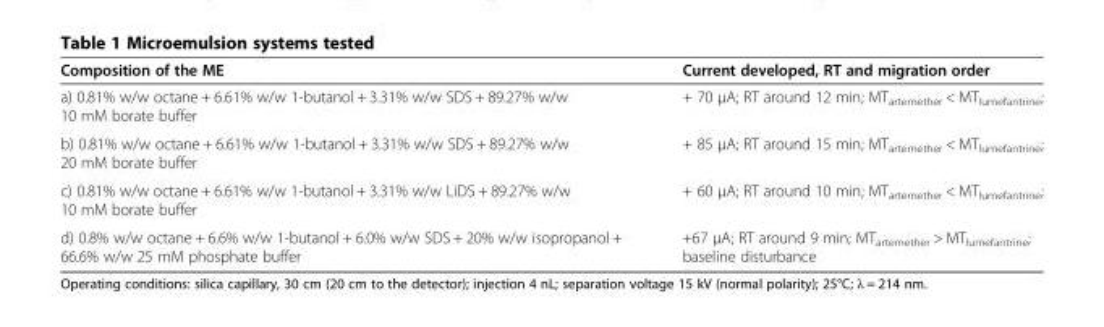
<table><thead><tr><td>Composition of the ME</td><td>Current developed, RT and migration order</td></tr></thead><tbody><tr><td>a) 0.81% w/w octane + 6.61% w/w 1-butanol + 3.31% w/w SDS + 89.27% w/w 10 mM borate buffer</td><td>+ 70 μA; RT around 12 min; MT<sub>artemether</sub> &lt; MT<sub>lumefantrine</sub>;</td></tr><tr><td>b) 0.81% w/w octane + 6.61% w/w 1-butanol + 3.31% w/w SDS + 89.27% w/w 20 mM borate buffer</td><td>+ 85 μA; RT around 15 min; MT<sub>artemether</sub> &lt; MT<sub>lumefantrine</sub>;</td></tr><tr><td>c) 0.81% w/w octane + 6.61% w/w 1-butanol + 3.31% w/w LiDS + 89.27% w/w 10 mM borate buffer</td><td>+ 60 μA; RT around 10 min; MT<sub>artemether</sub> &lt; MT<sub>lumefantrine</sub>;</td></tr><tr><td>d) 0.8% w/w octane + 6.6% w/w 1-butanol + 6.0% w/w SDS + 20% w/w isopropanol + 66.6% w/w 25 mM phosphate buffer</td><td>+67 μA; RT around 9 min; MT<sub>artemether</sub> &gt; MT<sub>lumefantrine</sub>; baseline disturbance</td></tr></tbody></table>